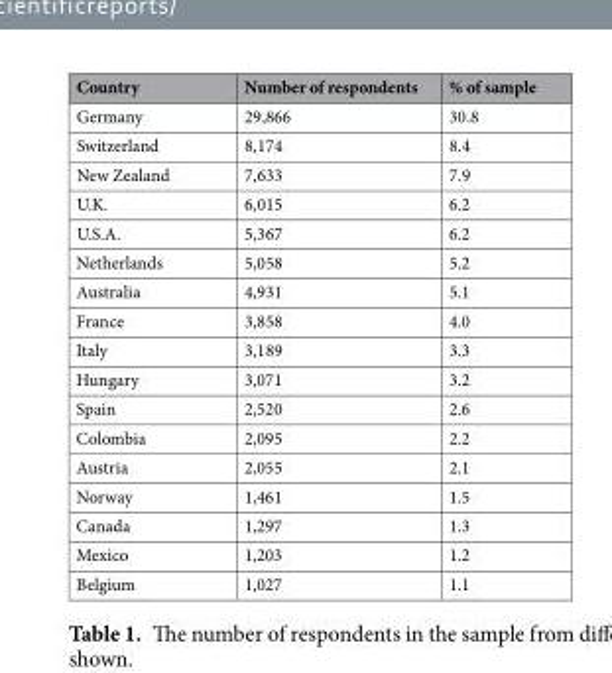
<table><thead><tr><td>Country</td><td>Number of respondents</td><td>% of sample</td></tr></thead><tbody><tr><td>Germany</td><td>29,866</td><td>30.8</td></tr><tr><td>Switzerland</td><td>8,174</td><td>8.4</td></tr><tr><td>New Zealand</td><td>7,633</td><td>7.9</td></tr><tr><td>U.K.</td><td>6,015</td><td>6.2</td></tr><tr><td>U.S.A.</td><td>5,367</td><td>6.2</td></tr><tr><td>Netherlands</td><td>5,058</td><td>5.2</td></tr><tr><td>Australia</td><td>4,931</td><td>5.1</td></tr><tr><td>France</td><td>3,858</td><td>4.0</td></tr><tr><td>Italy</td><td>3,189</td><td>3.3</td></tr><tr><td>Hungary</td><td>3,071</td><td>3.2</td></tr><tr><td>Spain</td><td>2,520</td><td>2.6</td></tr><tr><td>Colombia</td><td>2,095</td><td>2.2</td></tr><tr><td>Austria</td><td>2,055</td><td>2.1</td></tr><tr><td>Norway</td><td>1,461</td><td>1.5</td></tr><tr><td>Canada</td><td>1,297</td><td>1.3</td></tr><tr><td>Mexico</td><td>1,203</td><td>1.2</td></tr><tr><td>Belgium</td><td>1,027</td><td>1.1</td></tr></tbody></table>